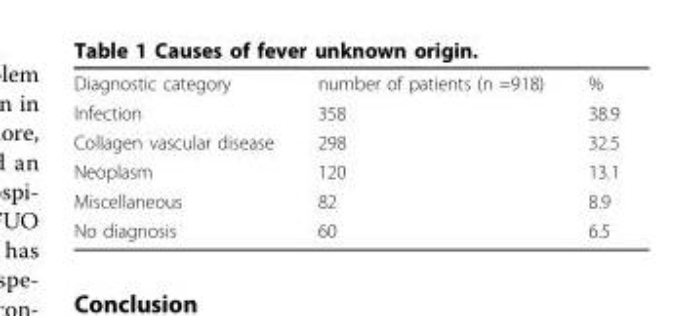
<table><tbody><tr><td>Diagnostic category</td><td>number of patients (n =918)</td><td>%</td></tr><tr><td>Infection</td><td>358</td><td>38.9</td></tr><tr><td>Collagen vascular disease</td><td>298</td><td>32.5</td></tr><tr><td>Neoplasm</td><td>120</td><td>13.1</td></tr><tr><td>Miscellaneous</td><td>82</td><td>8.9</td></tr><tr><td>No diagnosis</td><td>60</td><td>6.5</td></tr></tbody></table>